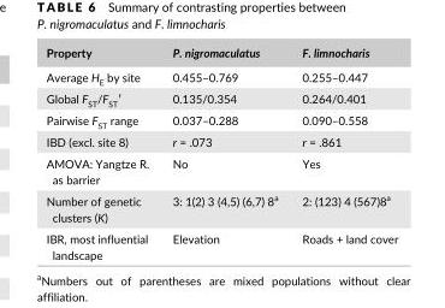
<table><thead><tr><td>Property</td><td>P. nigromaculatus</td><td>F. limnocharis</td></tr></thead><tbody><tr><td>Average H<sub>E</sub> by site</td><td>0.455–0.769</td><td>0.255–0.447</td></tr><tr><td>Global F<sub>ST</sub>/F<sub>ST</sub>′</td><td>0.135/0.354</td><td>0.264/0.401</td></tr><tr><td>Pairwise F<sub>ST</sub> range</td><td>0.037–0.288</td><td>0.090–0.558</td></tr><tr><td>IBD (excl. site 8)</td><td>r = .073</td><td>r = .861</td></tr><tr><td>AMOVA: Yangtze R. as barrier</td><td>No</td><td>Yes</td></tr><tr><td>Number of genetic clusters (K)</td><td>3: 1(2) 3 (4,5) (6,7) 8<sup>a</sup></td><td>2: (123) 4 (567)8<sup>a</sup></td></tr><tr><td>IBR, most influential landscape</td><td>Elevation</td><td>Roads + land cover</td></tr></tbody></table>